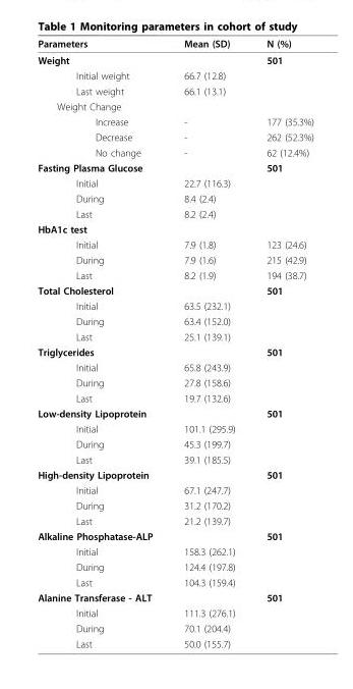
<table><thead><tr><td>Parameters</td><td>Mean (SD)</td><td>N (%)</td></tr></thead><tbody><tr><td>Weight</td><td></td><td>501</td></tr><tr><td>Initial weight</td><td>66.7 (12.8)</td><td></td></tr><tr><td>Last weight</td><td>66.1 (13.1)</td><td></td></tr><tr><td colspan="3">Weight Change</td></tr><tr><td>Increase</td><td>-</td><td>177 (35.3%)</td></tr><tr><td>Decrease</td><td>-</td><td>262 (52.3%)</td></tr><tr><td>No change</td><td>-</td><td>62 (12.4%)</td></tr><tr><td>Fasting Plasma Glucose</td><td></td><td>501</td></tr><tr><td>Initial</td><td>22.7 (116.3)</td><td></td></tr><tr><td>During</td><td>8.4 (2.4)</td><td></td></tr><tr><td>Last</td><td>8.2 (2.4)</td><td></td></tr><tr><td colspan="3">HbA1c test</td></tr><tr><td>Initial</td><td>7.9 (1.8)</td><td>123 (24.6)</td></tr><tr><td>During</td><td>7.9 (1.6)</td><td>215 (42.9)</td></tr><tr><td>Last</td><td>8.2 (1.9)</td><td>194 (38.7)</td></tr><tr><td>Total Cholesterol</td><td></td><td>501</td></tr><tr><td>Initial</td><td>63.5 (232.1)</td><td></td></tr><tr><td>During</td><td>63.4 (152.0)</td><td></td></tr><tr><td>Last</td><td>25.1 (139.1)</td><td></td></tr><tr><td>Triglycerides</td><td></td><td>501</td></tr><tr><td>Initial</td><td>65.8 (243.9)</td><td></td></tr><tr><td>During</td><td>27.8 (158.6)</td><td></td></tr><tr><td>Last</td><td>19.7 (132.6)</td><td></td></tr><tr><td>Low-density Lipoprotein</td><td></td><td>501</td></tr><tr><td>Initial</td><td>101.1 (295.9)</td><td></td></tr><tr><td>During</td><td>45.3 (199.7)</td><td></td></tr><tr><td>Last</td><td>39.1 (185.5)</td><td></td></tr><tr><td>High-density Lipoprotein</td><td></td><td>501</td></tr><tr><td>Initial</td><td>67.1 (247.7)</td><td></td></tr><tr><td>During</td><td>31.2 (170.2)</td><td></td></tr><tr><td>Last</td><td>21.2 (139.7)</td><td></td></tr><tr><td>Alkaline Phosphatase-ALP</td><td></td><td>501</td></tr><tr><td>Initial</td><td>158.3 (262.1)</td><td></td></tr><tr><td>During</td><td>124.4 (197.8)</td><td></td></tr><tr><td>Last</td><td>104.3 (159.4)</td><td></td></tr><tr><td>Alanine Transferase - ALT</td><td></td><td>501</td></tr><tr><td>Initial</td><td>111.3 (276.1)</td><td></td></tr><tr><td>During</td><td>70.1 (204.4)</td><td></td></tr><tr><td>Last</td><td>50.0 (155.7)</td><td></td></tr></tbody></table>